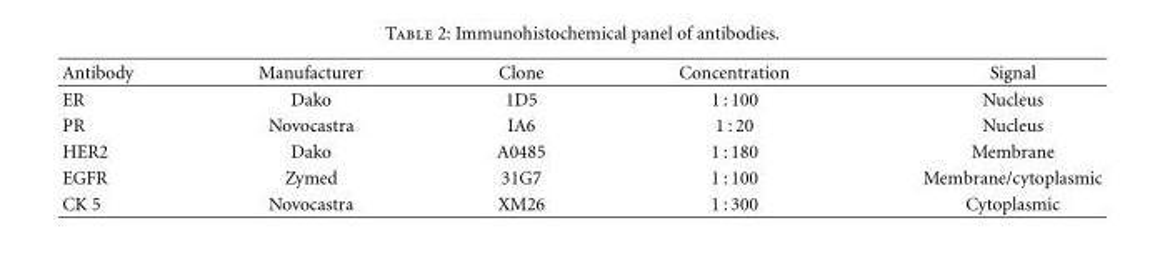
<table><thead><tr><td>Antibody</td><td>Manufacturer</td><td>Clone</td><td>Concentration</td><td>Signal</td></tr></thead><tbody><tr><td>ER</td><td>Dako</td><td>1D5</td><td>1 : 100</td><td>Nucleus</td></tr><tr><td>PR</td><td>Novocastra</td><td>IA6</td><td>1 : 20</td><td>Nucleus</td></tr><tr><td>HER2</td><td>Dako</td><td>A0485</td><td>1 : 180</td><td>Membrane</td></tr><tr><td>EGFR</td><td>Zymed</td><td>31G7</td><td>1 : 100</td><td>Membrane/cytoplasmic</td></tr><tr><td>CK 5</td><td>Novocastra</td><td>XM26</td><td>1 : 300</td><td>Cytoplasmic</td></tr></tbody></table>